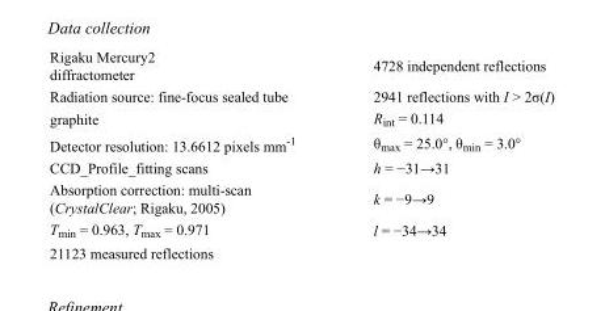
<table><tbody><tr><td>Rigaku Mercury2 diffractometer</td><td>4728 independent reflections</td></tr><tr><td>Radiation source: fine-focus sealed tube</td><td>2941 reflections with I &gt; 2σ(I)</td></tr><tr><td>graphite</td><td>R<sub>int</sub> = 0.114</td></tr><tr><td>Detector resolution: 13.6612 pixels mm<sup>-1</sup></td><td>θ<sub>max</sub> = 25.0°, θ<sub>min</sub> = 3.0°</td></tr><tr><td>CCD_Profile_fitting scans</td><td>h = −31→31</td></tr><tr><td>Absorption correction: multi-scan (CrystalClear; Rigaku, 2005)</td><td>k = −9→9</td></tr><tr><td>T<sub>min</sub> = 0.963, T<sub>max</sub> = 0.971</td><td>l = −34→34</td></tr><tr><td>21123 measured reflections</td><td></td></tr></tbody></table>